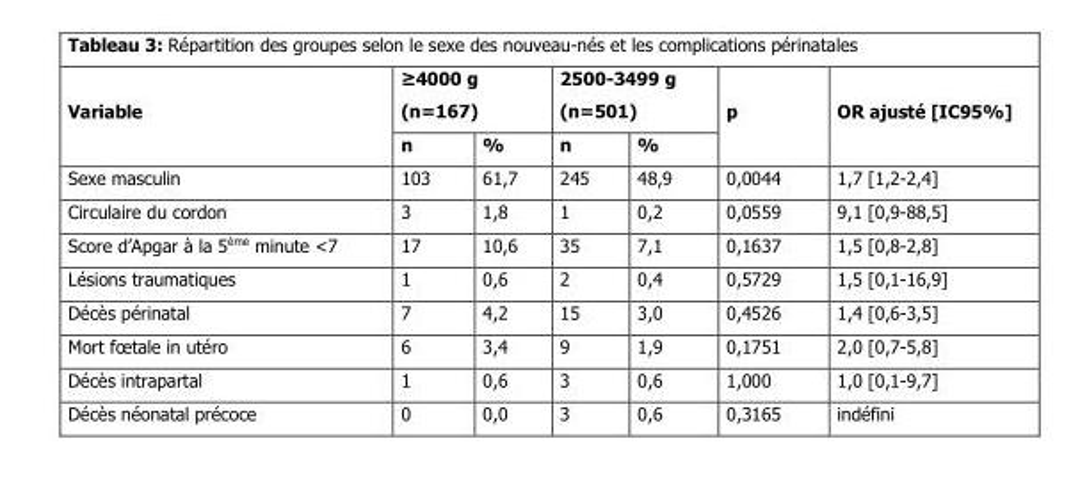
<table><thead><tr><td rowspan="2">Variable</td><td colspan="2">≥4000 g (n=167)</td><td colspan="2">2500-3499 g (n=501)</td><td rowspan="2">p</td><td rowspan="2">OR ajusté [IC95%]</td></tr><tr><td>n</td><td>%</td><td>n</td><td>%</td></tr></thead><tbody><tr><td>Sexe masculin</td><td>103</td><td>61,7</td><td>245</td><td>48,9</td><td>0,0044</td><td>1,7 [1,2-2,4]</td></tr><tr><td>Circulaire du cordon</td><td>3</td><td>1,8</td><td>1</td><td>0,2</td><td>0,0559</td><td>9,1 [0,9-88,5]</td></tr><tr><td>Score d’Apgar à la 5<sup>ème</sup> minute &lt;7</td><td>17</td><td>10,6</td><td>35</td><td>7,1</td><td>0,1637</td><td>1,5 [0,8-2,8]</td></tr><tr><td>Lésions traumatiques</td><td>1</td><td>0,6</td><td>2</td><td>0,4</td><td>0,5729</td><td>1,5 [0,1-16,9]</td></tr><tr><td>Décès périnatal</td><td>7</td><td>4,2</td><td>15</td><td>3,0</td><td>0,4526</td><td>1,4 [0,6-3,5]</td></tr><tr><td>Mort fœtale in utéro</td><td>6</td><td>3,4</td><td>9</td><td>1,9</td><td>0,1751</td><td>2,0 [0,7-5,8]</td></tr><tr><td>Décès intrapartal</td><td>1</td><td>0,6</td><td>3</td><td>0,6</td><td>1,000</td><td>1,0 [0,1-9,7]</td></tr><tr><td>Décès néonatal précoce</td><td>0</td><td>0,0</td><td>3</td><td>0,6</td><td>0,3165</td><td>indéfini</td></tr></tbody></table>